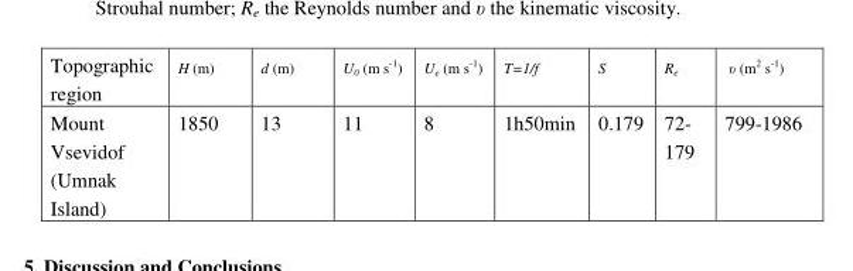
<table><thead><tr><td>Topographic region</td><td>H (m)</td><td>d (m)</td><td>U<sub>0</sub> (m s<sup>-1</sup>)</td><td>U<sub>e</sub> (m s<sup>-1</sup>)</td><td>T=1/f</td><td>S</td><td>R<sub>e</sub></td><td>υ (m<sup>2</sup> s<sup>-1</sup>)</td></tr></thead><tbody><tr><td>Mount Vsevidof (Umnak Island)</td><td>1850</td><td>13</td><td>11</td><td>8</td><td>1h50min</td><td>0.179</td><td>72- 179</td><td>799-1986</td></tr></tbody></table>